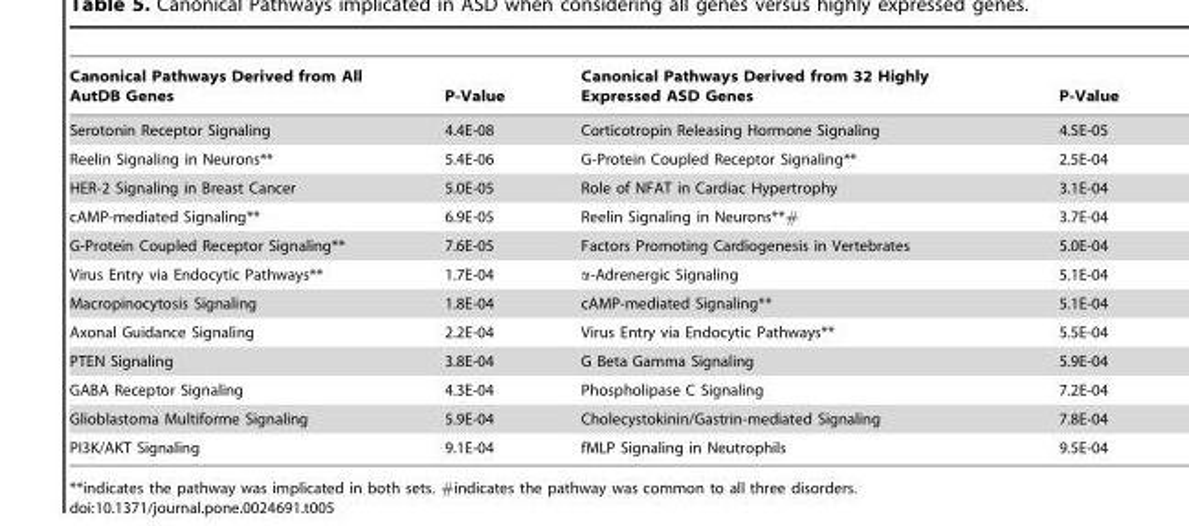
<table><thead><tr><td>Canonical Pathways Derived from All AutDB Genes</td><td>P-Value</td><td>Canonical Pathways Derived from 32 Highly Expressed ASD Genes</td><td>P-Value</td></tr></thead><tbody><tr><td>Serotonin Receptor Signaling</td><td>4.4E-08</td><td>Corticotropin Releasing Hormone Signaling</td><td>4.5E-05</td></tr><tr><td>Reelin Signaling in Neurons**</td><td>5.4E-06</td><td>G-Protein Coupled Receptor Signaling**</td><td>2.5E-04</td></tr><tr><td>HER-2 Signaling in Breast Cancer</td><td>5.0E-05</td><td>Role of NFAT in Cardiac Hypertrophy</td><td>3.1E-04</td></tr><tr><td>cAMP-mediated Signaling**</td><td>6.9E-05</td><td>Reelin Signaling in Neurons**#</td><td>3.7E-04</td></tr><tr><td>G-Protein Coupled Receptor Signaling**</td><td>7.6E-05</td><td>Factors Promoting Cardiogenesis in Vertebrates</td><td>5.0E-04</td></tr><tr><td>Virus Entry via Endocytic Pathways**</td><td>1.7E-04</td><td>α-Adrenergic Signaling</td><td>5.1E-04</td></tr><tr><td>Macropinocytosis Signaling</td><td>1.8E-04</td><td>cAMP-mediated Signaling**</td><td>5.1E-04</td></tr><tr><td>Axonal Guidance Signaling</td><td>2.2E-04</td><td>Virus Entry via Endocytic Pathways**</td><td>5.5E-04</td></tr><tr><td>PTEN Signaling</td><td>3.8E-04</td><td>G Beta Gamma Signaling</td><td>5.9E-04</td></tr><tr><td>GABA Receptor Signaling</td><td>4.3E-04</td><td>Phospholipase C Signaling</td><td>7.2E-04</td></tr><tr><td>Glioblastoma Multiforme Signaling</td><td>5.9E-04</td><td>Cholecystokinin/Gastrin-mediated Signaling</td><td>7.8E-04</td></tr><tr><td>PI3K/AKT Signaling</td><td>9.1E-04</td><td>fMLP Signaling in Neutrophils</td><td>9.5E-04</td></tr></tbody></table>